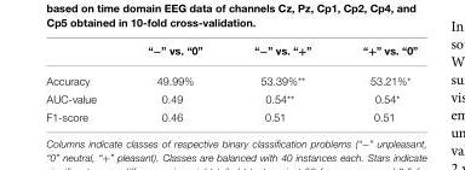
<table><thead><tr><td></td><td>“−” vs. “0”</td><td>“−” vs. “+”</td><td>“+” vs. “0”</td></tr></thead><tbody><tr><td>Accuracy</td><td>49.99%</td><td>53.39%**</td><td>53.21%*</td></tr><tr><td>AUC-value</td><td>0.49</td><td>0.54**</td><td>0.54*</td></tr><tr><td>F1-score</td><td>0.46</td><td>0.51</td><td>0.51</td></tr></tbody></table>